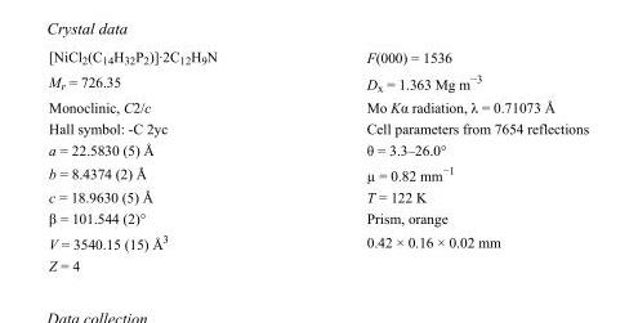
<table><tbody><tr><td>[NiCl<sub>2</sub>(C<sub>14</sub>H<sub>32</sub>P<sub>2</sub>)]·2C<sub>12</sub>H<sub>9</sub>N</td><td>F(000) = 1536</td></tr><tr><td>M<sub>r</sub> = 726.35</td><td>D<sub>x</sub> = 1.363 Mg m<sup>−3</sup></td></tr><tr><td>Monoclinic, C2/c</td><td>Mo Kα radiation, λ = 0.71073 Å</td></tr><tr><td>Hall symbol: -C 2yc</td><td>Cell parameters from 7654 reflections</td></tr><tr><td>a = 22.5830 (5) Å</td><td>θ = 3.3–26.0°</td></tr><tr><td>b = 8.4374 (2) Å</td><td>µ = 0.82 mm<sup>−1</sup></td></tr><tr><td>c = 18.9630 (5) Å</td><td>T = 122 K</td></tr><tr><td>β = 101.544 (2)°</td><td>Prism, orange</td></tr><tr><td>V = 3540.15 (15) Å<sup>3</sup></td><td>0.42 × 0.16 × 0.02 mm</td></tr><tr><td>Z = 4</td><td></td></tr></tbody></table>